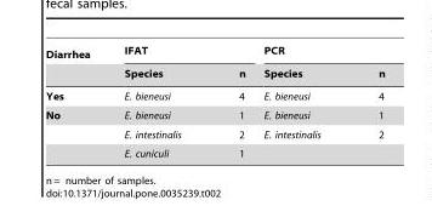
<table><thead><tr><td rowspan="2">Diarrhea</td><td colspan="2">IFAT</td><td colspan="2">PCR</td></tr><tr><td>Species</td><td>n</td><td>Species</td><td>n</td></tr></thead><tbody><tr><td>Yes</td><td>E. bieneusi</td><td>4</td><td>E. bieneusi</td><td>4</td></tr><tr><td rowspan="3">No</td><td>E. bieneusi</td><td>1</td><td>E. bieneusi</td><td>1</td></tr><tr><td>E. intestinalis</td><td>2</td><td>E. intestinalis</td><td>2</td></tr><tr><td>E. cuniculi</td><td>1</td><td></td><td></td></tr></tbody></table>